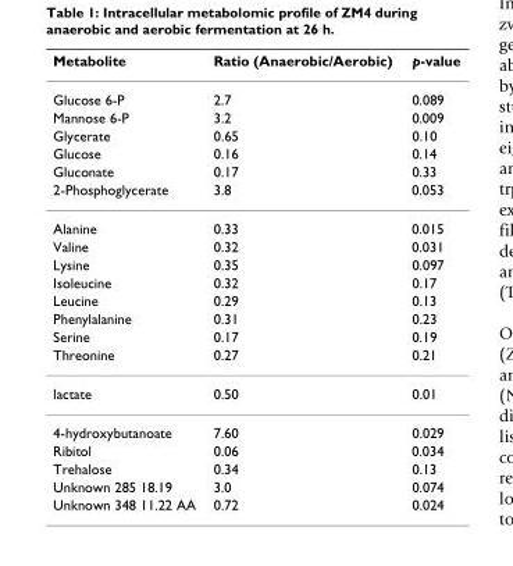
<table><thead><tr><td>Metabolite</td><td>Ratio (Anaerobic/Aerobic)</td><td>p-value</td></tr></thead><tbody><tr><td>Glucose 6-P</td><td>2.7</td><td>0.089</td></tr><tr><td>Mannose 6-P</td><td>3.2</td><td>0.009</td></tr><tr><td>Glycerate</td><td>0.65</td><td>0.10</td></tr><tr><td>Glucose</td><td>0.16</td><td>0.14</td></tr><tr><td>Gluconate</td><td>0.17</td><td>0.33</td></tr><tr><td>2-Phosphoglycerate</td><td>3.8</td><td>0.053</td></tr><tr><td>Alanine</td><td>0.33</td><td>0.015</td></tr><tr><td>Valine</td><td>0.32</td><td>0.031</td></tr><tr><td>Lysine</td><td>0.35</td><td>0.097</td></tr><tr><td>Isoleucine</td><td>0.32</td><td>0.17</td></tr><tr><td>Leucine</td><td>0.29</td><td>0.13</td></tr><tr><td>Phenylalanine</td><td>0.31</td><td>0.23</td></tr><tr><td>Serine</td><td>0.17</td><td>0.19</td></tr><tr><td>Threonine</td><td>0.27</td><td>0.21</td></tr><tr><td>lactate</td><td>0.50</td><td>0.01</td></tr><tr><td>4-hydroxybutanoate</td><td>7.60</td><td>0.029</td></tr><tr><td>Ribitol</td><td>0.06</td><td>0.034</td></tr><tr><td>Trehalose</td><td>0.34</td><td>0.13</td></tr><tr><td>Unknown 285 18.19</td><td>3.0</td><td>0.074</td></tr><tr><td>Unknown 348 11.22 AA</td><td>0.72</td><td>0.024</td></tr></tbody></table>